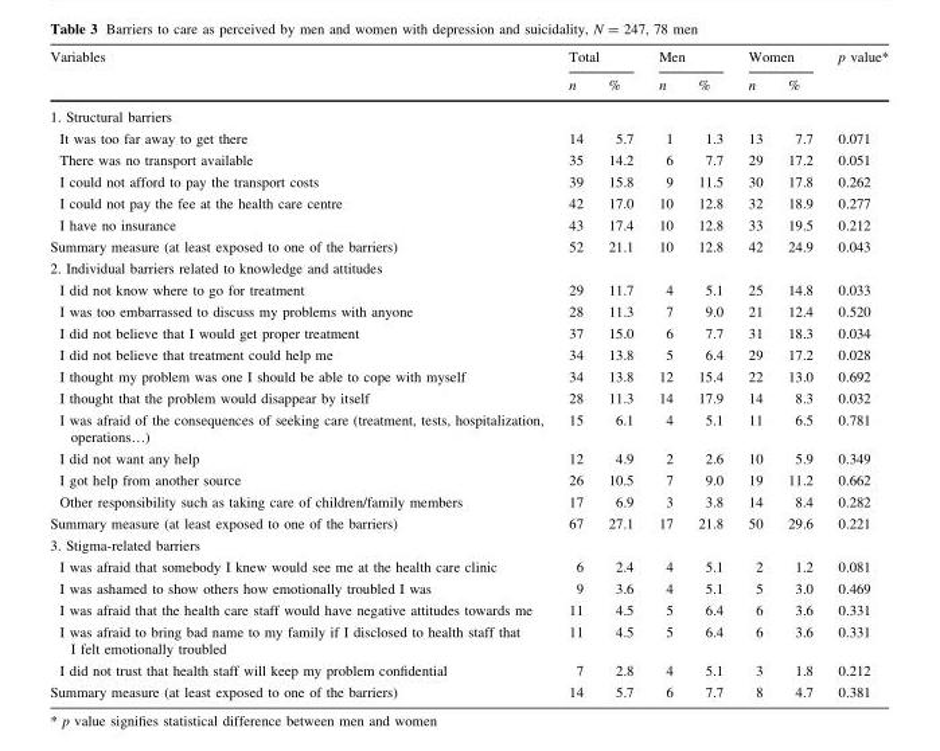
<table><thead><tr><td rowspan="2">Variables</td><td colspan="2">Total</td><td colspan="2">Men</td><td colspan="2">Women</td><td rowspan="2">p value*</td></tr><tr><td>n</td><td>%</td><td>n</td><td>%</td><td>n</td><td>%</td></tr></thead><tbody><tr><td colspan="8">1. Structural barriers</td></tr><tr><td>It was too far away to get there</td><td>14</td><td>5.7</td><td>1</td><td>1.3</td><td>13</td><td>7.7</td><td>0.071</td></tr><tr><td>There was no transport available</td><td>35</td><td>14.2</td><td>6</td><td>7.7</td><td>29</td><td>17.2</td><td>0.051</td></tr><tr><td>I could not afford to pay the transport costs</td><td>39</td><td>15.8</td><td>9</td><td>11.5</td><td>30</td><td>17.8</td><td>0.262</td></tr><tr><td>I could not pay the fee at the health care centre</td><td>42</td><td>17.0</td><td>10</td><td>12.8</td><td>32</td><td>18.9</td><td>0.277</td></tr><tr><td>I have no insurance</td><td>43</td><td>17.4</td><td>10</td><td>12.8</td><td>33</td><td>19.5</td><td>0.212</td></tr><tr><td>Summary measure (at least exposed to one of the barriers)</td><td>52</td><td>21.1</td><td>10</td><td>12.8</td><td>42</td><td>24.9</td><td>0.043</td></tr><tr><td colspan="8">2. Individual barriers related to knowledge and attitudes</td></tr><tr><td>I did not know where to go for treatment</td><td>29</td><td>11.7</td><td>4</td><td>5.1</td><td>25</td><td>14.8</td><td>0.033</td></tr><tr><td>I was too embarrassed to discuss my problems with anyone</td><td>28</td><td>11.3</td><td>7</td><td>9.0</td><td>21</td><td>12.4</td><td>0.520</td></tr><tr><td>I did not believe that I would get proper treatment</td><td>37</td><td>15.0</td><td>6</td><td>7.7</td><td>31</td><td>18.3</td><td>0.034</td></tr><tr><td>I did not believe that treatment could help me</td><td>34</td><td>13.8</td><td>5</td><td>6.4</td><td>29</td><td>17.2</td><td>0.028</td></tr><tr><td>I thought my problem was one I should be able to cope with myself</td><td>34</td><td>13.8</td><td>12</td><td>15.4</td><td>22</td><td>13.0</td><td>0.692</td></tr><tr><td>I thought that the problem would disappear by itself</td><td>28</td><td>11.3</td><td>14</td><td>17.9</td><td>14</td><td>8.3</td><td>0.032</td></tr><tr><td>I was afraid of the consequences of seeking care (treatment, tests, hospitalization, operations…)</td><td>15</td><td>6.1</td><td>4</td><td>5.1</td><td>11</td><td>6.5</td><td>0.781</td></tr><tr><td>I did not want any help</td><td>12</td><td>4.9</td><td>2</td><td>2.6</td><td>10</td><td>5.9</td><td>0.349</td></tr><tr><td>I got help from another source</td><td>26</td><td>10.5</td><td>7</td><td>9.0</td><td>19</td><td>11.2</td><td>0.662</td></tr><tr><td>Other responsibility such as taking care of children/family members</td><td>17</td><td>6.9</td><td>3</td><td>3.8</td><td>14</td><td>8.4</td><td>0.282</td></tr><tr><td>Summary measure (at least exposed to one of the barriers)</td><td>67</td><td>27.1</td><td>17</td><td>21.8</td><td>50</td><td>29.6</td><td>0.221</td></tr><tr><td colspan="8">3. Stigma-related barriers</td></tr><tr><td>I was afraid that somebody I knew would see me at the health care clinic</td><td>6</td><td>2.4</td><td>4</td><td>5.1</td><td>2</td><td>1.2</td><td>0.081</td></tr><tr><td>I was ashamed to show others how emotionally troubled I was</td><td>9</td><td>3.6</td><td>4</td><td>5.1</td><td>5</td><td>3.0</td><td>0.469</td></tr><tr><td>I was afraid that the health care staff would have negative attitudes towards me</td><td>11</td><td>4.5</td><td>5</td><td>6.4</td><td>6</td><td>3.6</td><td>0.331</td></tr><tr><td>I was afraid to bring bad name to my family if I disclosed to health staff that I felt emotionally troubled</td><td>11</td><td>4.5</td><td>5</td><td>6.4</td><td>6</td><td>3.6</td><td>0.331</td></tr><tr><td>I did not trust that health staff will keep my problem confidential</td><td>7</td><td>2.8</td><td>4</td><td>5.1</td><td>3</td><td>1.8</td><td>0.212</td></tr><tr><td>Summary measure (at least exposed to one of the barriers)</td><td>14</td><td>5.7</td><td>6</td><td>7.7</td><td>8</td><td>4.7</td><td>0.381</td></tr></tbody></table>